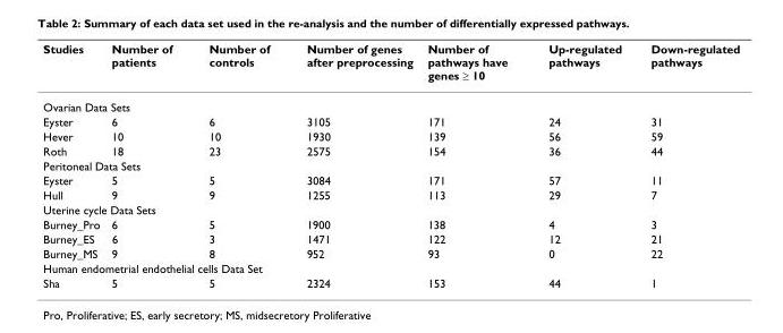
<table><thead><tr><td>Studies</td><td>Number of patients</td><td>Number of controls</td><td>Number of genes after preprocessing</td><td>Number of pathways have genes ≥ 10</td><td>Up-regulated pathways</td><td>Down-regulated pathways</td></tr></thead><tbody><tr><td colspan="7">Ovarian Data Sets</td></tr><tr><td>Eyster</td><td>6</td><td>6</td><td>3105</td><td>171</td><td>24</td><td>31</td></tr><tr><td>Hever</td><td>10</td><td>10</td><td>1930</td><td>139</td><td>56</td><td>59</td></tr><tr><td>Roth</td><td>18</td><td>23</td><td>2575</td><td>154</td><td>36</td><td>44</td></tr><tr><td colspan="7">Peritoneal Data Sets</td></tr><tr><td>Eyster</td><td>5</td><td>5</td><td>3084</td><td>171</td><td>57</td><td>11</td></tr><tr><td>Hull</td><td>9</td><td>9</td><td>1255</td><td>113</td><td>29</td><td>7</td></tr><tr><td colspan="7">Uterine cycle Data Sets</td></tr><tr><td>Burney_Pro</td><td>6</td><td>5</td><td>1900</td><td>138</td><td>4</td><td>3</td></tr><tr><td>Burney_ES</td><td>6</td><td>3</td><td>1471</td><td>122</td><td>12</td><td>21</td></tr><tr><td>Burney_MS</td><td>9</td><td>8</td><td>952</td><td>93</td><td>0</td><td>22</td></tr><tr><td colspan="7">Human endometrial endothelial cells Data Set</td></tr><tr><td>Sha</td><td>5</td><td>5</td><td>2324</td><td>153</td><td>44</td><td>1</td></tr></tbody></table>